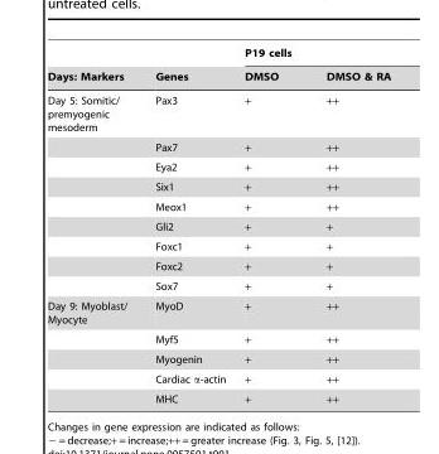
<table><thead><tr><td rowspan="2">Days: Markers</td><td rowspan="2">Genes</td><td colspan="2">P19 cells</td></tr><tr><td>DMSO</td><td>DMSO &amp; RA</td></tr></thead><tbody><tr><td rowspan="9">Day 5: Somitic/ premyogenic mesoderm</td><td>Pax3</td><td>+</td><td>++</td></tr><tr><td>Pax7</td><td>+</td><td>++</td></tr><tr><td>Eya2</td><td>+</td><td>++</td></tr><tr><td>Six1</td><td>+</td><td>++</td></tr><tr><td>Meox1</td><td>+</td><td>++</td></tr><tr><td>Gli2</td><td>+</td><td>+</td></tr><tr><td>Foxc1</td><td>+</td><td>+</td></tr><tr><td>Foxc2</td><td>+</td><td>+</td></tr><tr><td>Sox7</td><td>+</td><td>+</td></tr><tr><td rowspan="5">Day 9: Myoblast/ Myocyte</td><td>MyoD</td><td>+</td><td>++</td></tr><tr><td>Myf5</td><td>+</td><td>++</td></tr><tr><td>Myogenin</td><td>+</td><td>++</td></tr><tr><td>Cardiac α-actin</td><td>+</td><td>++</td></tr><tr><td>MHC</td><td>+</td><td>++</td></tr></tbody></table>